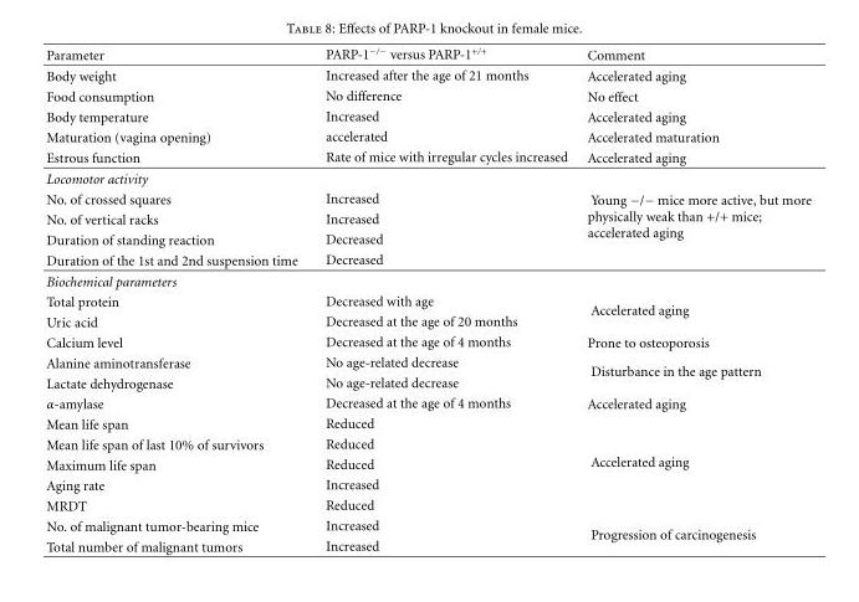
<table><thead><tr><td>Parameter</td><td>PARP-1<sup>−/−</sup> versus PARP-1<sup>+/+</sup></td><td>Comment</td></tr></thead><tbody><tr><td>Body weight</td><td>Increased after the age of 21 months</td><td>Accelerated aging</td></tr><tr><td>Food consumption</td><td>No difference</td><td>No effect</td></tr><tr><td>Body temperature</td><td>Increased</td><td>Accelerated aging</td></tr><tr><td>Maturation (vagina opening)</td><td>accelerated</td><td>Accelerated maturation</td></tr><tr><td>Estrous function</td><td>Rate of mice with irregular cycles increased</td><td>Accelerated aging</td></tr><tr><td colspan="2">Locomotor activity</td><td rowspan="5">Young −/− mice more active, but more physically weak than +/+ mice; accelerated aging</td></tr><tr><td>No. of crossed squares</td><td>Increased</td></tr><tr><td>No. of vertical racks</td><td>Increased</td></tr><tr><td>Duration of standing reaction</td><td>Decreased</td></tr><tr><td>Duration of the 1st and 2nd suspension time</td><td>Decreased</td></tr><tr><td colspan="3">Biochemical parameters</td></tr><tr><td>Total protein</td><td>Decreased with age</td><td rowspan="2">Accelerated aging</td></tr><tr><td>Uric acid</td><td>Decreased at the age of 20 months</td></tr><tr><td>Calcium level</td><td>Decreased at the age of 4 months</td><td>Prone to osteoporosis</td></tr><tr><td>Alanine aminotransferase</td><td>No age-related decrease</td><td rowspan="2">Disturbance in the age pattern</td></tr><tr><td>Lactate dehydrogenase</td><td>No age-related decrease</td></tr><tr><td>α-amylase</td><td>Decreased at the age of 4 months</td><td>Accelerated aging</td></tr><tr><td>Mean life span</td><td>Reduced</td><td rowspan="5">Accelerated aging</td></tr><tr><td>Mean life span of last 10% of survivors</td><td>Reduced</td></tr><tr><td>Maximum life span</td><td>Reduced</td></tr><tr><td>Aging rate</td><td>Increased</td></tr><tr><td>MRDT</td><td>Reduced</td></tr><tr><td>No. of malignant tumor-bearing mice</td><td>Increased</td><td rowspan="2">Progression of carcinogenesis</td></tr><tr><td>Total number of malignant tumors</td><td>Increased</td></tr></tbody></table>